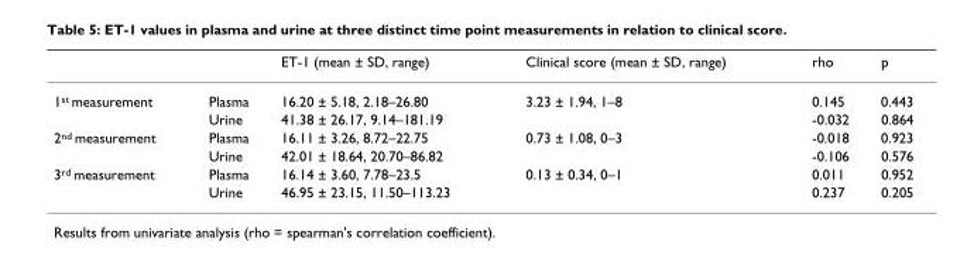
<table><thead><tr><td></td><td></td><td>ET-1 (mean ± SD, range)</td><td>Clinical score (mean ± SD, range)</td><td>rho</td><td>p</td></tr></thead><tbody><tr><td rowspan="2">1<sup>st</sup> measurement</td><td>Plasma</td><td>16.20 ± 5.18, 2.18–26.80</td><td>3.23 ± 1.94, 1–8</td><td>0.145</td><td>0.443</td></tr><tr><td>Urine</td><td>41.38 ± 26.17, 9.14–181.19</td><td></td><td>-0.032</td><td>0.864</td></tr><tr><td rowspan="2">2<sup>nd</sup> measurement</td><td>Plasma</td><td>16.11 ± 3.26, 8.72–22.75</td><td>0.73 ± 1.08, 0–3</td><td>-0.018</td><td>0.923</td></tr><tr><td>Urine</td><td>42.01 ± 18.64, 20.70–86.82</td><td></td><td>-0.106</td><td>0.576</td></tr><tr><td rowspan="2">3<sup>rd</sup> measurement</td><td>Plasma</td><td>16.14 ± 3.60, 7.78–23.5</td><td>0.13 ± 0.34, 0–1</td><td>0.011</td><td>0.952</td></tr><tr><td>Urine</td><td>46.95 ± 23.15, 11.50–113.23</td><td></td><td>0.237</td><td>0.205</td></tr></tbody></table>